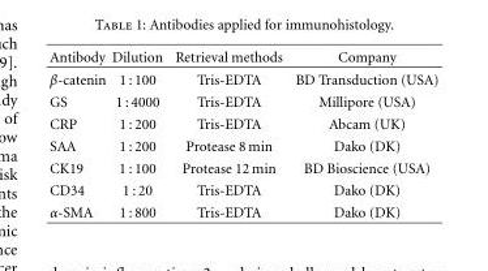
<table><thead><tr><td>Antibody</td><td>Dilution</td><td>Retrieval methods</td><td>Company</td></tr></thead><tbody><tr><td>β-catenin</td><td>1 : 100</td><td>Tris-EDTA</td><td>BD Transduction (USA)</td></tr><tr><td>GS</td><td>1 : 4000</td><td>Tris-EDTA</td><td>Millipore (USA)</td></tr><tr><td>CRP</td><td>1 : 200</td><td>Tris-EDTA</td><td>Abcam (UK)</td></tr><tr><td>SAA</td><td>1 : 200</td><td>Protease 8 min</td><td>Dako (DK)</td></tr><tr><td>CK19</td><td>1 : 100</td><td>Protease 12 min</td><td>BD Bioscience (USA)</td></tr><tr><td>CD34</td><td>1 : 20</td><td>Tris-EDTA</td><td>Dako (DK)</td></tr><tr><td>α-SMA</td><td>1 : 800</td><td>Tris-EDTA</td><td>Dako (DK)</td></tr></tbody></table>